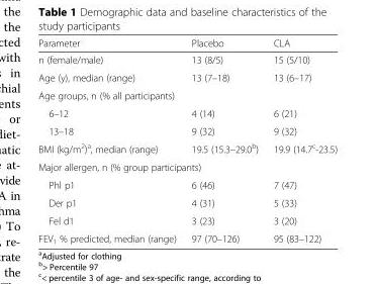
<table><thead><tr><td>Parameter</td><td>Placebo</td><td>CLA</td></tr></thead><tbody><tr><td>n (female/male)</td><td>13 (8/5)</td><td>15 (5/10)</td></tr><tr><td>Age (y), median (range)</td><td>13 (7–18)</td><td>13 (6–17)</td></tr><tr><td colspan="3">Age groups, n (% all participants)</td></tr><tr><td>6–12</td><td>4 (14)</td><td>6 (21)</td></tr><tr><td>13–18</td><td>9 (32)</td><td>9 (32)</td></tr><tr><td>BMI (kg/m<sup>2</sup>)<sup>a</sup>, median (range)</td><td>19.5 (15.3–29.0<sup>b</sup>)</td><td>19.9 (14.7<sup>c</sup>-23.5)</td></tr><tr><td colspan="3">Major allergen, n (% group participants)</td></tr><tr><td>Phl p1</td><td>6 (46)</td><td>7 (47)</td></tr><tr><td>Der p1</td><td>4 (31)</td><td>5 (33)</td></tr><tr><td>Fel d1</td><td>3 (23)</td><td>3 (20)</td></tr><tr><td>FEV<sub>1</sub> % predicted, median (range)</td><td>97 (70–126)</td><td>95 (83–122)</td></tr></tbody></table>